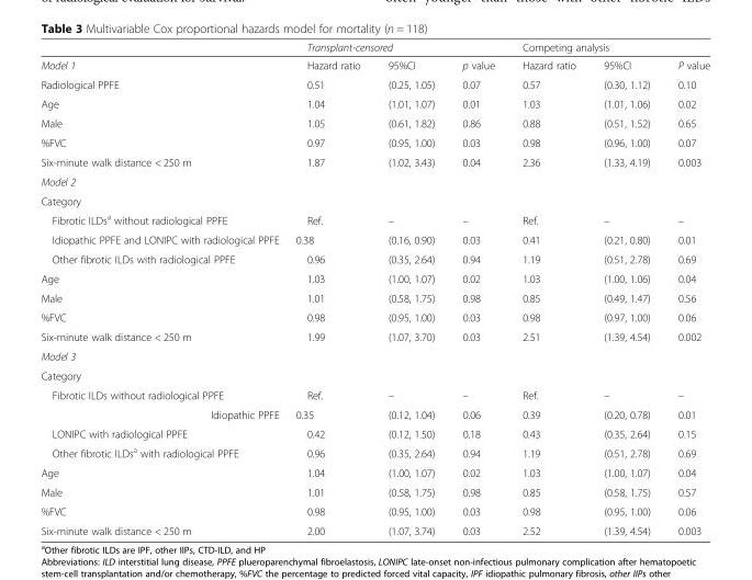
<table><thead><tr><td rowspan="2">Model 1</td><td colspan="3">Transplant-censored</td><td colspan="3">Competing analysis</td></tr><tr><td>Hazard ratio</td><td>95%CI</td><td>p value</td><td>Hazard ratio</td><td>95%CI</td><td>P value</td></tr></thead><tbody><tr><td>Radiological PPFE</td><td>0.51</td><td>(0.25, 1.05)</td><td>0.07</td><td>0.57</td><td>(0.30, 1.12)</td><td>0.10</td></tr><tr><td>Age</td><td>1.04</td><td>(1.01, 1.07)</td><td>0.01</td><td>1.03</td><td>(1.01, 1.06)</td><td>0.02</td></tr><tr><td>Male</td><td>1.05</td><td>(0.61, 1.82)</td><td>0.86</td><td>0.88</td><td>(0.51, 1.52)</td><td>0.65</td></tr><tr><td>%FVC</td><td>0.97</td><td>(0.95, 1.00)</td><td>0.03</td><td>0.98</td><td>(0.96, 1.00)</td><td>0.07</td></tr><tr><td>Six-minute walk distance &lt; 250 m</td><td>1.87</td><td>(1.02, 3.43)</td><td>0.04</td><td>2.36</td><td>(1.33, 4.19)</td><td>0.003</td></tr><tr><td colspan="7">Model 2</td></tr><tr><td colspan="7">Category</td></tr><tr><td>Fibrotic ILDs<sup>a</sup> without radiological PPFE</td><td>Ref.</td><td>–</td><td>–</td><td>Ref.</td><td>–</td><td>–</td></tr><tr><td>Idiopathic PPFE and LONIPC with radiological PPFE</td><td>0.38</td><td>(0.16, 0.90)</td><td>0.03</td><td>0.41</td><td>(0.21, 0.80)</td><td>0.01</td></tr><tr><td>Other fibrotic ILDs with radiological PPFE</td><td>0.96</td><td>(0.35, 2.64)</td><td>0.94</td><td>1.19</td><td>(0.51, 2.78)</td><td>0.69</td></tr><tr><td>Age</td><td>1.03</td><td>(1.00, 1.07)</td><td>0.02</td><td>1.03</td><td>(1.00, 1.06)</td><td>0.04</td></tr><tr><td>Male</td><td>1.01</td><td>(0.58, 1.75)</td><td>0.98</td><td>0.85</td><td>(0.49, 1.47)</td><td>0.56</td></tr><tr><td>%FVC</td><td>0.98</td><td>(0.95, 1.00)</td><td>0.03</td><td>0.98</td><td>(0.97, 1.00)</td><td>0.06</td></tr><tr><td>Six-minute walk distance &lt; 250 m</td><td>1.99</td><td>(1.07, 3.70)</td><td>0.03</td><td>2.51</td><td>(1.39, 4.54)</td><td>0.002</td></tr><tr><td colspan="7">Model 3</td></tr><tr><td colspan="7">Category</td></tr><tr><td>Fibrotic ILDs without radiological PPFE</td><td>Ref.</td><td>–</td><td>–</td><td>Ref.</td><td>–</td><td>–</td></tr><tr><td>Idiopathic PPFE</td><td>0.35</td><td>(0.12, 1.04)</td><td>0.06</td><td>0.39</td><td>(0.20, 0.78)</td><td>0.01</td></tr><tr><td>LONIPC with radiological PPFE</td><td>0.42</td><td>(0.12, 1.50)</td><td>0.18</td><td>0.43</td><td>(0.35, 2.64)</td><td>0.15</td></tr><tr><td>Other fibrotic ILDs<sup>a</sup> with radiological PPFE</td><td>0.96</td><td>(0.35, 2.64)</td><td>0.94</td><td>1.19</td><td>(0.51, 2.78)</td><td>0.69</td></tr><tr><td>Age</td><td>1.04</td><td>(1.00, 1.07)</td><td>0.02</td><td>1.03</td><td>(1.00, 1.07)</td><td>0.04</td></tr><tr><td>Male</td><td>1.01</td><td>(0.58, 1.75)</td><td>0.98</td><td>0.85</td><td>(0.58, 1.75)</td><td>0.57</td></tr><tr><td>%FVC</td><td>0.98</td><td>(0.95, 1.00)</td><td>0.03</td><td>0.98</td><td>(0.95, 1.00)</td><td>0.06</td></tr><tr><td>Six-minute walk distance &lt; 250 m</td><td>2.00</td><td>(1.07, 3.74)</td><td>0.03</td><td>2.52</td><td>(1.39, 4.54)</td><td>0.003</td></tr></tbody></table>